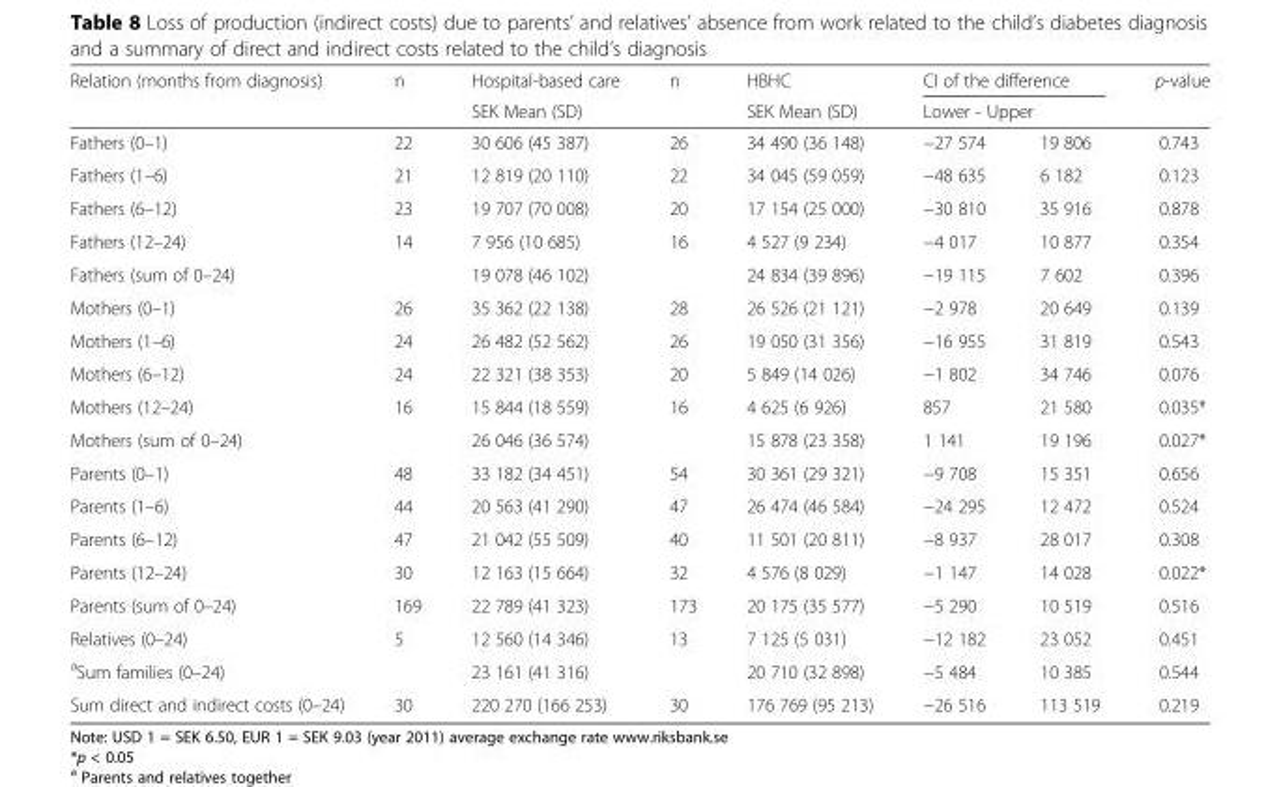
<table><thead><tr><td rowspan="3">Relation (months from diagnosis) Fathers (0–1)</td><td rowspan="3">n 22</td><td rowspan="3">Hospital-based care SEK Mean (SD) 30 606 (45 387)</td><td rowspan="3">n 26</td><td rowspan="3">HBHC SEK Mean (SD) 34 490 (36 148)</td><td rowspan="2" colspan="2">CI of the difference Lower - Upper</td><td rowspan="3">p-value 0.743</td></tr><tr></tr><tr><td>−27 574</td><td>19 806</td></tr></thead><tbody><tr><td>Fathers (1–6)</td><td>21</td><td>12 819 (20 110)</td><td>22</td><td>34 045 (59 059)</td><td>−48 635</td><td>6 182</td><td>0.123</td></tr><tr><td>Fathers (6–12)</td><td>23</td><td>19 707 (70 008)</td><td>20</td><td>17 154 (25 000)</td><td>−30 810</td><td>35 916</td><td>0.878</td></tr><tr><td>Fathers (12–24)</td><td>14</td><td>7 956 (10 685)</td><td>16</td><td>4 527 (9 234)</td><td>−4 017</td><td>10 877</td><td>0.354</td></tr><tr><td>Fathers (sum of 0–24)</td><td></td><td>19 078 (46 102)</td><td></td><td>24 834 (39 896)</td><td>−19 115</td><td>7 602</td><td>0.396</td></tr><tr><td>Mothers (0–1)</td><td>26</td><td>35 362 (22 138)</td><td>28</td><td>26 526 (21 121)</td><td>−2 978</td><td>20 649</td><td>0.139</td></tr><tr><td>Mothers (1–6)</td><td>24</td><td>26 482 (52 562)</td><td>26</td><td>19 050 (31 356)</td><td>−16 955</td><td>31 819</td><td>0.543</td></tr><tr><td>Mothers (6–12)</td><td>24</td><td>22 321 (38 353)</td><td>20</td><td>5 849 (14 026)</td><td>−1 802</td><td>34 746</td><td>0.076</td></tr><tr><td>Mothers (12–24)</td><td>16</td><td>15 844 (18 559)</td><td>16</td><td>4 625 (6 926)</td><td>857</td><td>21 580</td><td>0.035*</td></tr><tr><td>Mothers (sum of 0–24)</td><td></td><td>26 046 (36 574)</td><td></td><td>15 878 (23 358)</td><td>1 141</td><td>19 196</td><td>0.027*</td></tr><tr><td>Parents (0–1)</td><td>48</td><td>33 182 (34 451)</td><td>54</td><td>30 361 (29 321)</td><td>−9 708</td><td>15 351</td><td>0.656</td></tr><tr><td>Parents (1–6)</td><td>44</td><td>20 563 (41 290)</td><td>47</td><td>26 474 (46 584)</td><td>−24 295</td><td>12 472</td><td>0.524</td></tr><tr><td>Parents (6–12)</td><td>47</td><td>21 042 (55 509)</td><td>40</td><td>11 501 (20 811)</td><td>−8 937</td><td>28 017</td><td>0.308</td></tr><tr><td>Parents (12–24)</td><td>30</td><td>12 163 (15 664)</td><td>32</td><td>4 576 (8 029)</td><td>−1 147</td><td>14 028</td><td>0.022*</td></tr><tr><td>Parents (sum of 0–24)</td><td>169</td><td>22 789 (41 323)</td><td>173</td><td>20 175 (35 577)</td><td>−5 290</td><td>10 519</td><td>0.516</td></tr><tr><td>Relatives (0–24)</td><td>5</td><td>12 560 (14 346)</td><td>13</td><td>7 125 (5 031)</td><td>−12 182</td><td>23 052</td><td>0.451</td></tr><tr><td><sup>a</sup>Sum families (0–24)</td><td></td><td>23 161 (41 316)</td><td></td><td>20 710 (32 898)</td><td>−5 484</td><td>10 385</td><td>0.544</td></tr><tr><td>Sum direct and indirect costs (0–24)</td><td>30</td><td>220 270 (166 253)</td><td>30</td><td>176 769 (95 213)</td><td>−26 516</td><td>113 519</td><td>0.219</td></tr></tbody></table>